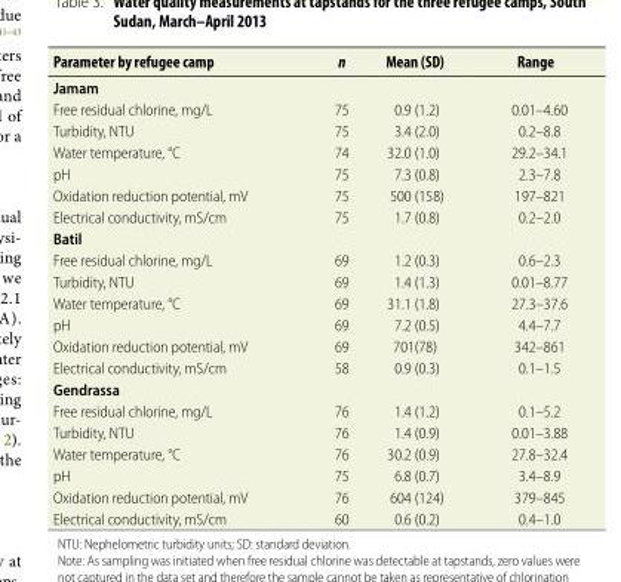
<table><thead><tr><td>Parameter by refugee camp</td><td>n</td><td>Mean (SD)</td><td>Range</td></tr></thead><tbody><tr><td colspan="4">Jamam</td></tr><tr><td>Free residual chlorine, mg/L</td><td>75</td><td>0.9 (1.2)</td><td>0.01–4.60</td></tr><tr><td>Turbidity, NTU</td><td>75</td><td>3.4 (2.0)</td><td>0.2–8.8</td></tr><tr><td>Water temperature, °C</td><td>74</td><td>32.0 (1.0)</td><td>29.2–34.1</td></tr><tr><td>pH</td><td>75</td><td>7.3 (0.8)</td><td>2.3–7.8</td></tr><tr><td>Oxidation reduction potential, mV</td><td>75</td><td>500 (158)</td><td>197–821</td></tr><tr><td>Electrical conductivity, mS/cm</td><td>75</td><td>1.7 (0.8)</td><td>0.2–2.0</td></tr><tr><td colspan="4">Batil</td></tr><tr><td>Free residual chlorine, mg/L</td><td>69</td><td>1.2 (0.3)</td><td>0.6–2.3</td></tr><tr><td>Turbidity, NTU</td><td>69</td><td>1.4 (1.3)</td><td>0.01–8.77</td></tr><tr><td>Water temperature, °C</td><td>69</td><td>31.1 (1.8)</td><td>27.3–37.6</td></tr><tr><td>pH</td><td>69</td><td>7.2 (0.5)</td><td>4.4–7.7</td></tr><tr><td>Oxidation reduction potential, mV</td><td>69</td><td>701(78)</td><td>342–861</td></tr><tr><td>Electrical conductivity, mS/cm</td><td>58</td><td>0.9 (0.3)</td><td>0.1–1.5</td></tr><tr><td colspan="4">Gendrassa</td></tr><tr><td>Free residual chlorine, mg/L</td><td>76</td><td>1.4 (1.2)</td><td>0.1–5.2</td></tr><tr><td>Turbidity, NTU</td><td>76</td><td>1.4 (0.9)</td><td>0.01–3.88</td></tr><tr><td>Water temperature, °C</td><td>76</td><td>30.2 (0.9)</td><td>27.8–32.4</td></tr><tr><td>pH</td><td>75</td><td>6.8 (0.7)</td><td>3.4–8.9</td></tr><tr><td>Oxidation reduction potential, mV</td><td>76</td><td>604 (124)</td><td>379–845</td></tr><tr><td>Electrical conductivity, mS/cm</td><td>60</td><td>0.6 (0.2)</td><td>0.4–1.0</td></tr></tbody></table>